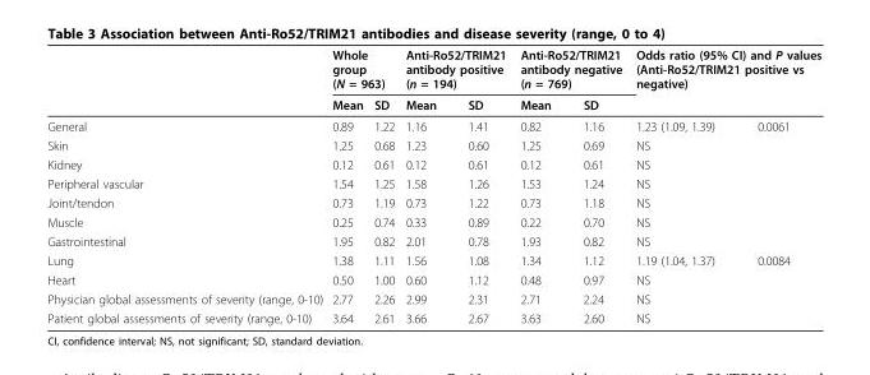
<table><thead><tr><td rowspan="2"></td><td colspan="2">Whole group (N = 963)</td><td colspan="2">Anti-Ro52/TRIM21 antibody positive (n = 194)</td><td colspan="2">Anti-Ro52/TRIM21 antibody negative (n = 769)</td><td colspan="2">Odds ratio (95% CI) and P values (Anti-Ro52/TRIM21 positive vs negative)</td></tr><tr><td>Mean</td><td>SD</td><td>Mean</td><td>SD</td><td>Mean</td><td>SD</td><td></td><td></td></tr></thead><tbody><tr><td>General</td><td>0.89</td><td>1.22</td><td>1.16</td><td>1.41</td><td>0.82</td><td>1.16</td><td>1.23 (1.09, 1.39)</td><td>0.0061</td></tr><tr><td>Skin</td><td>1.25</td><td>0.68</td><td>1.23</td><td>0.60</td><td>1.25</td><td>0.69</td><td>NS</td><td></td></tr><tr><td>Kidney</td><td>0.12</td><td>0.61</td><td>0.12</td><td>0.61</td><td>0.12</td><td>0.61</td><td>NS</td><td></td></tr><tr><td>Peripheral vascular</td><td>1.54</td><td>1.25</td><td>1.58</td><td>1.26</td><td>1.53</td><td>1.24</td><td>NS</td><td></td></tr><tr><td>Joint/tendon</td><td>0.73</td><td>1.19</td><td>0.73</td><td>1.22</td><td>0.73</td><td>1.18</td><td>NS</td><td></td></tr><tr><td>Muscle</td><td>0.25</td><td>0.74</td><td>0.33</td><td>0.89</td><td>0.22</td><td>0.70</td><td>NS</td><td></td></tr><tr><td>Gastrointestinal</td><td>1.95</td><td>0.82</td><td>2.01</td><td>0.78</td><td>1.93</td><td>0.82</td><td>NS</td><td></td></tr><tr><td>Lung</td><td>1.38</td><td>1.11</td><td>1.56</td><td>1.08</td><td>1.34</td><td>1.12</td><td>1.19 (1.04, 1.37)</td><td>0.0084</td></tr><tr><td>Heart</td><td>0.50</td><td>1.00</td><td>0.60</td><td>1.12</td><td>0.48</td><td>0.97</td><td>NS</td><td></td></tr><tr><td>Physician global assessments of severity (range, 0-10)</td><td>2.77</td><td>2.26</td><td>2.99</td><td>2.31</td><td>2.71</td><td>2.24</td><td>NS</td><td></td></tr><tr><td>Patient global assessments of severity (range, 0-10)</td><td>3.64</td><td>2.61</td><td>3.66</td><td>2.67</td><td>3.63</td><td>2.60</td><td>NS</td><td></td></tr></tbody></table>